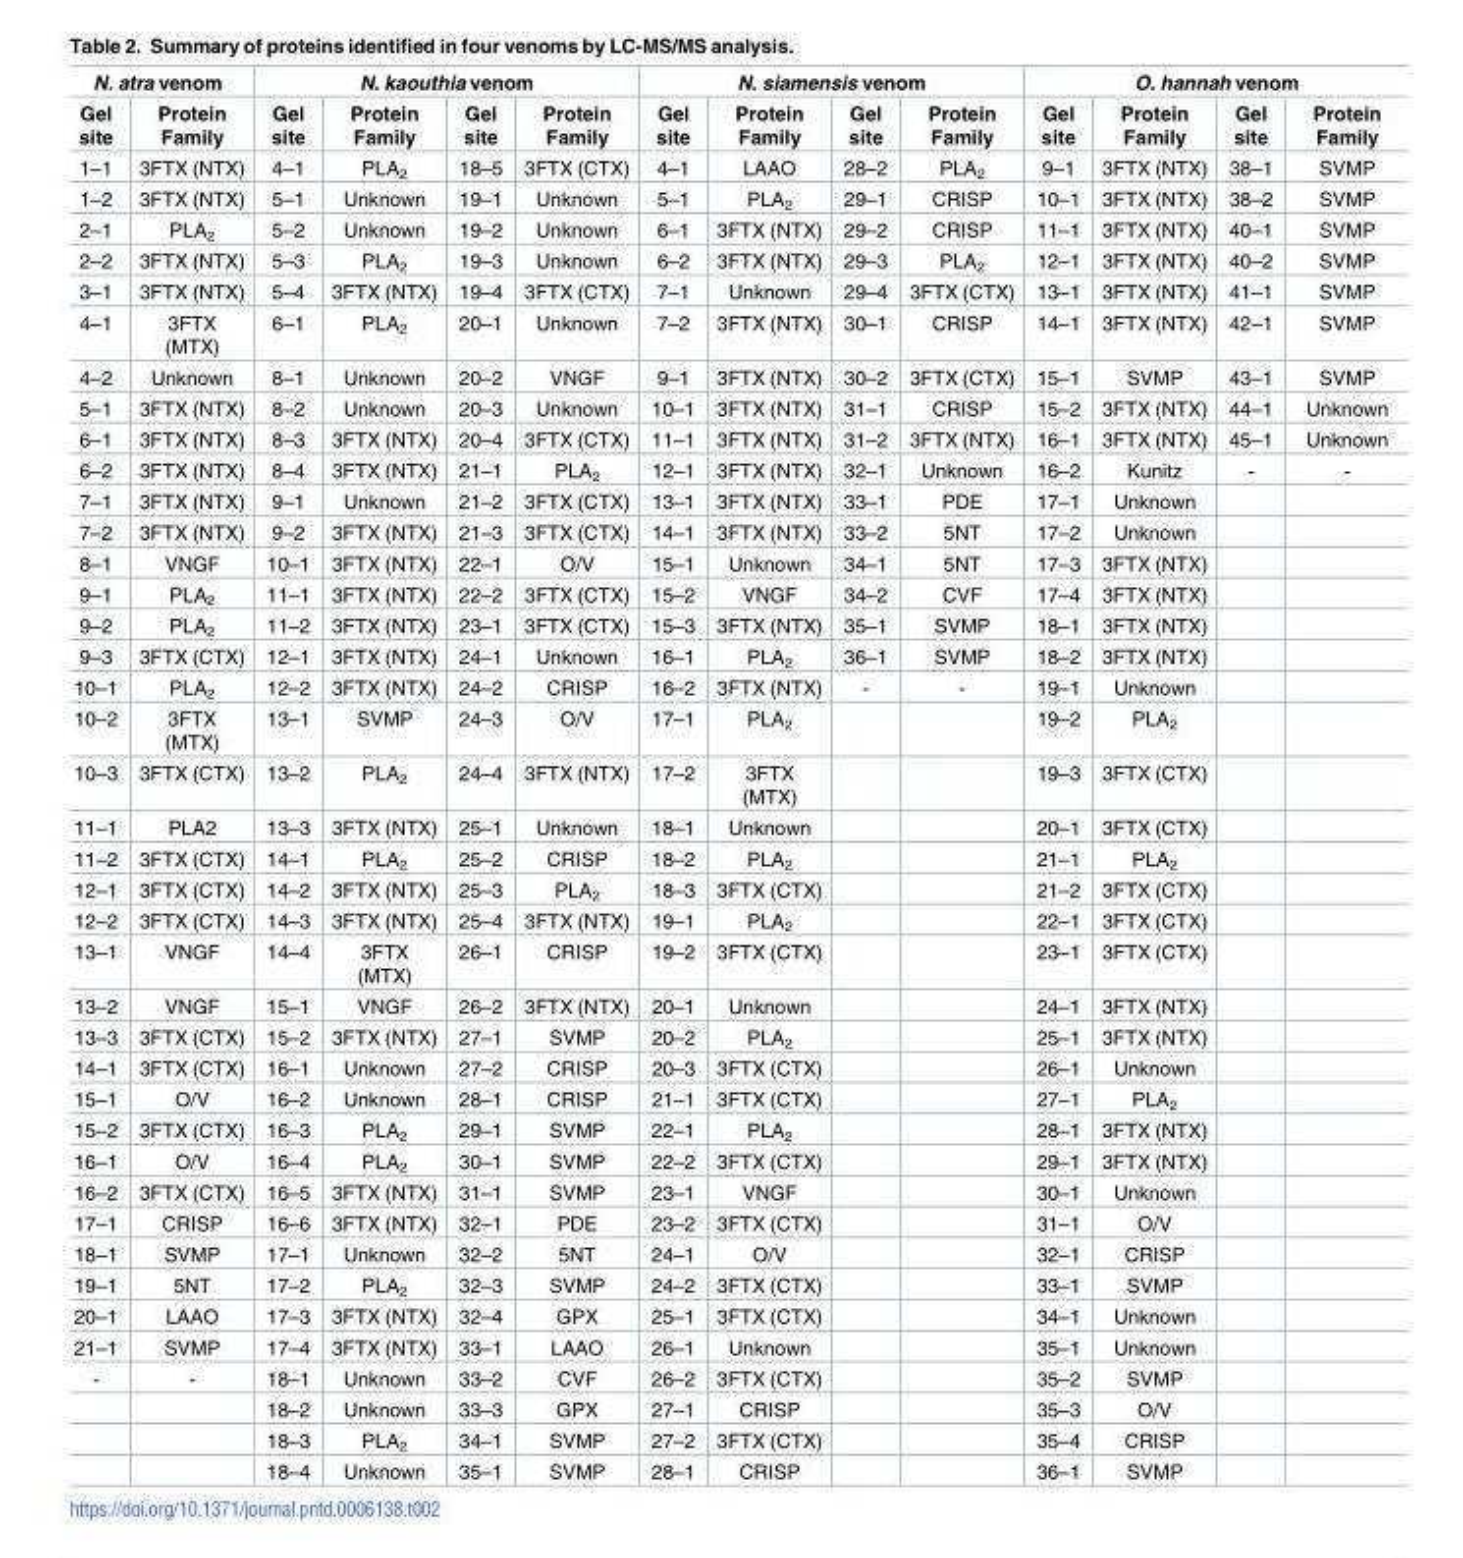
<table><thead><tr><td colspan="2">N. atra venom</td><td colspan="4">N. kaouthia venom</td><td colspan="4">N. siamensis venom</td><td colspan="4">O. hannah venom</td></tr><tr><td>Gel site</td><td>Protein Family</td><td>Gel site</td><td>Protein Family</td><td>Gel site</td><td>Protein Family</td><td>Gel site</td><td>Protein Family</td><td>Gel site</td><td>Protein Family</td><td>Gel site</td><td>Protein Family</td><td>Gel site</td><td>Protein Family</td></tr></thead><tbody><tr><td>1–1</td><td>3FTX (NTX)</td><td>4–1</td><td>PLA<sub>2</sub></td><td>18–5</td><td>3FTX (CTX)</td><td>4–1</td><td>LAAO</td><td>28–2</td><td>PLA<sub>2</sub></td><td>9–1</td><td>3FTX (NTX)</td><td>38–1</td><td>SVMP</td></tr><tr><td>1–2</td><td>3FTX (NTX)</td><td>5–1</td><td>Unknown</td><td>19–1</td><td>Unknown</td><td>5–1</td><td>PLA<sub>2</sub></td><td>29–1</td><td>CRISP</td><td>10–1</td><td>3FTX (NTX)</td><td>38–2</td><td>SVMP</td></tr><tr><td>2–1</td><td>PLA<sub>2</sub></td><td>5–2</td><td>Unknown</td><td>19–2</td><td>Unknown</td><td>6–1</td><td>3FTX (NTX)</td><td>29–2</td><td>CRISP</td><td>11–1</td><td>3FTX (NTX)</td><td>40–1</td><td>SVMP</td></tr><tr><td>2–2</td><td>3FTX (NTX)</td><td>5–3</td><td>PLA<sub>2</sub></td><td>19–3</td><td>Unknown</td><td>6–2</td><td>3FTX (NTX)</td><td>29–3</td><td>PLA<sub>2</sub></td><td>12–1</td><td>3FTX (NTX)</td><td>40–2</td><td>SVMP</td></tr><tr><td>3–1</td><td>3FTX (NTX)</td><td>5–4</td><td>3FTX (NTX)</td><td>19–4</td><td>3FTX (CTX)</td><td>7–1</td><td>Unknown</td><td>29–4</td><td>3FTX (CTX)</td><td>13–1</td><td>3FTX (NTX)</td><td>41–1</td><td>SVMP</td></tr><tr><td>4–1</td><td>3FTX (MTX)</td><td>6–1</td><td>PLA<sub>2</sub></td><td>20–1</td><td>Unknown</td><td>7–2</td><td>3FTX (NTX)</td><td>30–1</td><td>CRISP</td><td>14–1</td><td>3FTX (NTX)</td><td>42–1</td><td>SVMP</td></tr><tr><td>4–2</td><td>Unknown</td><td>8–1</td><td>Unknown</td><td>20–2</td><td>VNGF</td><td>9–1</td><td>3FTX (NTX)</td><td>30–2</td><td>3FTX (CTX)</td><td>15–1</td><td>SVMP</td><td>43–1</td><td>SVMP</td></tr><tr><td>5–1</td><td>3FTX (NTX)</td><td>8–2</td><td>Unknown</td><td>20–3</td><td>Unknown</td><td>10–1</td><td>3FTX (NTX)</td><td>31–1</td><td>CRISP</td><td>15–2</td><td>3FTX (NTX)</td><td>44–1</td><td>Unknown</td></tr><tr><td>6–1</td><td>3FTX (NTX)</td><td>8–3</td><td>3FTX (NTX)</td><td>20–4</td><td>3FTX (CTX)</td><td>11–1</td><td>3FTX (NTX)</td><td>31–2</td><td>3FTX (NTX)</td><td>16–1</td><td>3FTX (NTX)</td><td>45–1</td><td>Unknown</td></tr><tr><td>6–2</td><td>3FTX (NTX)</td><td>8–4</td><td>3FTX (NTX)</td><td>21–1</td><td>PLA<sub>2</sub></td><td>12–1</td><td>3FTX (NTX)</td><td>32–1</td><td>Unknown</td><td>16–2</td><td>Kunitz</td><td>-</td><td>-</td></tr><tr><td>7–1</td><td>3FTX (NTX)</td><td>9–1</td><td>Unknown</td><td>21–2</td><td>3FTX (CTX)</td><td>13–1</td><td>3FTX (NTX)</td><td>33–1</td><td>PDE</td><td>17–1</td><td>Unknown</td><td></td><td></td></tr><tr><td>7–2</td><td>3FTX (NTX)</td><td>9–2</td><td>3FTX (NTX)</td><td>21–3</td><td>3FTX (CTX)</td><td>14–1</td><td>3FTX (NTX)</td><td>33–2</td><td>5NT</td><td>17–2</td><td>Unknown</td><td></td><td></td></tr><tr><td>8–1</td><td>VNGF</td><td>10–1</td><td>3FTX (NTX)</td><td>22–1</td><td>O/V</td><td>15–1</td><td>Unknown</td><td>34–1</td><td>5NT</td><td>17–3</td><td>3FTX (NTX)</td><td></td><td></td></tr><tr><td>9–1</td><td>PLA<sub>2</sub></td><td>11–1</td><td>3FTX (NTX)</td><td>22–2</td><td>3FTX (CTX)</td><td>15–2</td><td>VNGF</td><td>34–2</td><td>CVF</td><td>17–4</td><td>3FTX (NTX)</td><td></td><td></td></tr><tr><td>9–2</td><td>PLA<sub>2</sub></td><td>11–2</td><td>3FTX (NTX)</td><td>23–1</td><td>3FTX (CTX)</td><td>15–3</td><td>3FTX (NTX)</td><td>35–1</td><td>SVMP</td><td>18–1</td><td>3FTX (NTX)</td><td></td><td></td></tr><tr><td>9–3</td><td>3FTX (CTX)</td><td>12–1</td><td>3FTX (NTX)</td><td>24–1</td><td>Unknown</td><td>16–1</td><td>PLA<sub>2</sub></td><td>36–1</td><td>SVMP</td><td>18–2</td><td>3FTX (NTX)</td><td></td><td></td></tr><tr><td>10–1</td><td>PLA<sub>2</sub></td><td>12–2</td><td>3FTX (NTX)</td><td>24–2</td><td>CRISP</td><td>16–2</td><td>3FTX (NTX)</td><td>-</td><td>-</td><td>19–1</td><td>Unknown</td><td></td><td></td></tr><tr><td>10–2</td><td>3FTX (MTX)</td><td>13–1</td><td>SVMP</td><td>24–3</td><td>O/V</td><td>17–1</td><td>PLA<sub>2</sub></td><td></td><td></td><td>19–2</td><td>PLA<sub>2</sub></td><td></td><td></td></tr><tr><td>10–3</td><td>3FTX (CTX)</td><td>13–2</td><td>PLA<sub>2</sub></td><td>24–4</td><td>3FTX (NTX)</td><td>17–2</td><td>3FTX (MTX)</td><td></td><td></td><td>19–3</td><td>3FTX (CTX)</td><td></td><td></td></tr><tr><td>11–1</td><td>PLA2</td><td>13–3</td><td>3FTX (NTX)</td><td>25–1</td><td>Unknown</td><td>18–1</td><td>Unknown</td><td></td><td></td><td>20–1</td><td>3FTX (CTX)</td><td></td><td></td></tr><tr><td>11–2</td><td>3FTX (CTX)</td><td>14–1</td><td>PLA<sub>2</sub></td><td>25–2</td><td>CRISP</td><td>18–2</td><td>PLA<sub>2</sub></td><td></td><td></td><td>21–1</td><td>PLA<sub>2</sub></td><td></td><td></td></tr><tr><td>12–1</td><td>3FTX (CTX)</td><td>14–2</td><td>3FTX (NTX)</td><td>25–3</td><td>PLA<sub>2</sub></td><td>18–3</td><td>3FTX (CTX)</td><td></td><td></td><td>21–2</td><td>3FTX (CTX)</td><td></td><td></td></tr><tr><td>12–2</td><td>3FTX (CTX)</td><td>14–3</td><td>3FTX (NTX)</td><td>25–4</td><td>3FTX (NTX)</td><td>19–1</td><td>PLA<sub>2</sub></td><td></td><td></td><td>22–1</td><td>3FTX (CTX)</td><td></td><td></td></tr><tr><td>13–1</td><td>VNGF</td><td>14–4</td><td>3FTX (MTX)</td><td>26–1</td><td>CRISP</td><td>19–2</td><td>3FTX (CTX)</td><td></td><td></td><td>23–1</td><td>3FTX (CTX)</td><td></td><td></td></tr><tr><td>13–2</td><td>VNGF</td><td>15–1</td><td>VNGF</td><td>26–2</td><td>3FTX (NTX)</td><td>20–1</td><td>Unknown</td><td></td><td></td><td>24–1</td><td>3FTX (NTX)</td><td></td><td></td></tr><tr><td>13–3</td><td>3FTX (CTX)</td><td>15–2</td><td>3FTX (NTX)</td><td>27–1</td><td>SVMP</td><td>20–2</td><td>PLA<sub>2</sub></td><td></td><td></td><td>25–1</td><td>3FTX (NTX)</td><td></td><td></td></tr><tr><td>14–1</td><td>3FTX (CTX)</td><td>16–1</td><td>Unknown</td><td>27–2</td><td>CRISP</td><td>20–3</td><td>3FTX (CTX)</td><td></td><td></td><td>26–1</td><td>Unknown</td><td></td><td></td></tr><tr><td>15–1</td><td>O/V</td><td>16–2</td><td>Unknown</td><td>28–1</td><td>CRISP</td><td>21–1</td><td>3FTX (CTX)</td><td></td><td></td><td>27–1</td><td>PLA<sub>2</sub></td><td></td><td></td></tr><tr><td>15–2</td><td>3FTX (CTX)</td><td>16–3</td><td>PLA<sub>2</sub></td><td>29–1</td><td>SVMP</td><td>22–1</td><td>PLA<sub>2</sub></td><td></td><td></td><td>28–1</td><td>3FTX (NTX)</td><td></td><td></td></tr><tr><td>16–1</td><td>O/V</td><td>16–4</td><td>PLA<sub>2</sub></td><td>30–1</td><td>SVMP</td><td>22–2</td><td>3FTX (CTX)</td><td></td><td></td><td>29–1</td><td>3FTX (NTX)</td><td></td><td></td></tr><tr><td>16–2</td><td>3FTX (CTX)</td><td>16–5</td><td>3FTX (NTX)</td><td>31–1</td><td>SVMP</td><td>23–1</td><td>VNGF</td><td></td><td></td><td>30–1</td><td>Unknown</td><td></td><td></td></tr><tr><td>17–1</td><td>CRISP</td><td>16–6</td><td>3FTX (NTX)</td><td>32–1</td><td>PDE</td><td>23–2</td><td>3FTX (CTX)</td><td></td><td></td><td>31–1</td><td>O/V</td><td></td><td></td></tr><tr><td>18–1</td><td>SVMP</td><td>17–1</td><td>Unknown</td><td>32–2</td><td>5NT</td><td>24–1</td><td>O/V</td><td></td><td></td><td>32–1</td><td>CRISP</td><td></td><td></td></tr><tr><td>19–1</td><td>5NT</td><td>17–2</td><td>PLA<sub>2</sub></td><td>32–3</td><td>SVMP</td><td>24–2</td><td>3FTX (CTX)</td><td></td><td></td><td>33–1</td><td>SVMP</td><td></td><td></td></tr><tr><td>20–1</td><td>LAAO</td><td>17–3</td><td>3FTX (NTX)</td><td>32–4</td><td>GPX</td><td>25–1</td><td>3FTX (CTX)</td><td></td><td></td><td>34–1</td><td>Unknown</td><td></td><td></td></tr><tr><td>21–1</td><td>SVMP</td><td>17–4</td><td>3FTX (NTX)</td><td>33–1</td><td>LAAO</td><td>26–1</td><td>Unknown</td><td></td><td></td><td>35–1</td><td>Unknown</td><td></td><td></td></tr><tr><td rowspan="4">-</td><td>-</td><td>18–1</td><td>Unknown</td><td>33–2</td><td>CVF</td><td>26–2</td><td>3FTX (CTX)</td><td></td><td></td><td>35–2</td><td>SVMP</td><td></td><td></td></tr><tr><td></td><td>18–2</td><td>Unknown</td><td>33–3</td><td>GPX</td><td>27–1</td><td>CRISP</td><td></td><td></td><td>35–3</td><td>O/V</td><td></td><td></td></tr><tr><td></td><td>18–3</td><td>PLA<sub>2</sub></td><td>34–1</td><td>SVMP</td><td>27–2</td><td>3FTX (CTX)</td><td></td><td></td><td>35–4</td><td>CRISP</td><td></td><td></td></tr><tr><td></td><td>18–4</td><td>Unknown</td><td>35–1</td><td>SVMP</td><td>28–1</td><td>CRISP</td><td></td><td></td><td>36–1</td><td>SVMP</td><td></td><td></td></tr></tbody></table>